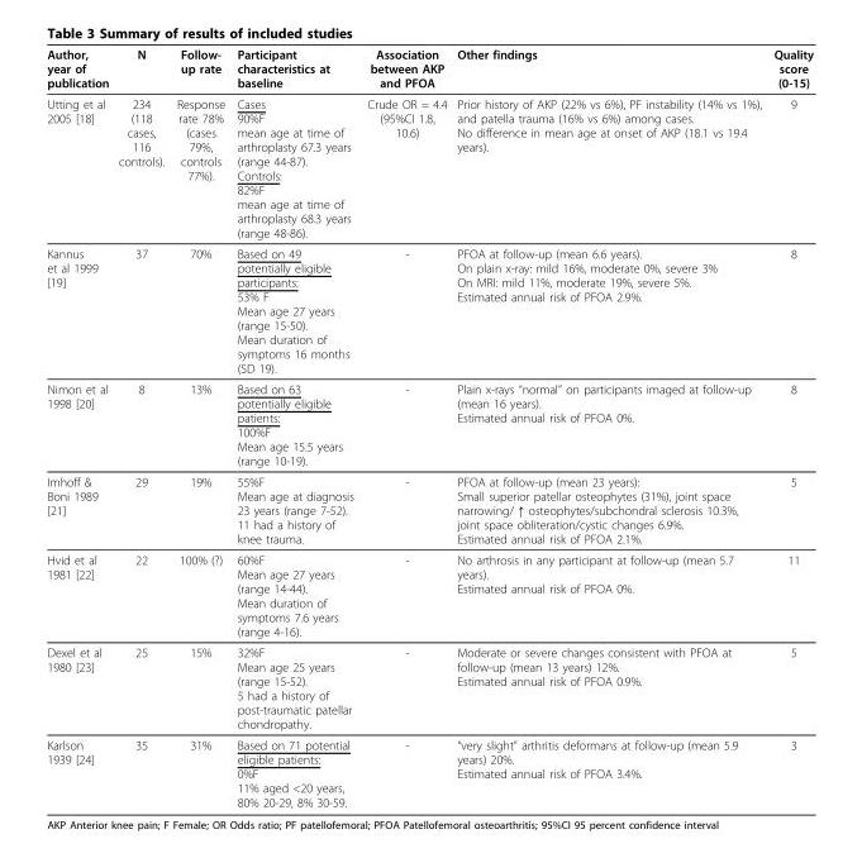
<table><thead><tr><td>Author, year of publication</td><td>N</td><td>Follow- up rate</td><td>Participant characteristics at baseline</td><td>Association between AKP and PFOA</td><td>Other findings</td><td>Quality score (0-15)</td></tr></thead><tbody><tr><td>Utting et al 2005 [18]</td><td>234 (118 cases, 116 controls).</td><td>Response rate 78% (cases 79%, controls 77%).</td><td>Cases 90%F mean age at time of arthroplasty 67.3 years (range 44-87). Controls: 82%F mean age at time of arthroplasty 68.3 years (range 48-86).</td><td>Crude OR = 4.4 (95%CI 1.8, 10.6)</td><td>Prior history of AKP (22% vs 6%), PF instability (14% vs 1%), and patella trauma (16% vs 6%) among cases. No difference in mean age at onset of AKP (18.1 vs 19.4 years).</td><td>9</td></tr><tr><td>Kannus et al 1999 [19]</td><td>37</td><td>70%</td><td>Based on 49 potentially eligible participants: 53% F Mean age 27 years (range 15-50). Mean duration of symptoms 16 months (SD 19).</td><td>-</td><td>PFOA at follow-up (mean 6.6 years). On plain x-ray: mild 16%, moderate 0%, severe 3% On MRI: mild 11%, moderate 19%, severe 5%. Estimated annual risk of PFOA 2.9%.</td><td>8</td></tr><tr><td>Nimon et al 1998 [20]</td><td>8</td><td>13%</td><td>Based on 63 potentially eligible patients: 100%F Mean age 15.5 years (range 10-19).</td><td>-</td><td>Plain x-rays “normal” on participants imaged at follow-up (mean 16 years). Estimated annual risk of PFOA 0%.</td><td>8</td></tr><tr><td>Imhoff &amp; Boni 1989 [21]</td><td>29</td><td>19%</td><td>55%F Mean age at diagnosis 23 years (range 7-52). 11 had a history of knee trauma.</td><td>-</td><td>PFOA at follow-up (mean 23 years): Small superior patellar osteophytes (31%), joint space narrowing/ ↑ osteophytes/subchondral sclerosis 10.3%, joint space obliteration/cystic changes 6.9%. Estimated annual risk of PFOA 2.1%.</td><td>5</td></tr><tr><td>Hvid et al 1981 [22]</td><td>22</td><td>100% (?)</td><td>60%F Mean age 27 years (range 14-44). Mean duration of symptoms 7.6 years (range 4-16).</td><td>-</td><td>No arthrosis in any participant at follow-up (mean 5.7 years). Estimated annual risk of PFOA 0%.</td><td>11</td></tr><tr><td>Dexel et al 1980 [23]</td><td>25</td><td>15%</td><td>32%F Mean age 25 years (range 15-52). 5 had a history of post-traumatic patellar chondropathy.</td><td>-</td><td>Moderate or severe changes consistent with PFOA at follow-up (mean 13 years) 12%. Estimated annual risk of PFOA 0.9%.</td><td>5</td></tr><tr><td>Karlson 1939 [24]</td><td>35</td><td>31%</td><td>Based on 71 potential eligible patients: 0%F 11% aged &lt;20 years, 80% 20-29, 8% 30-59.</td><td>-</td><td>“very slight” arthritis deformans at follow-up (mean 5.9 years) 20%. Estimated annual risk of PFOA 3.4%.</td><td>3</td></tr></tbody></table>